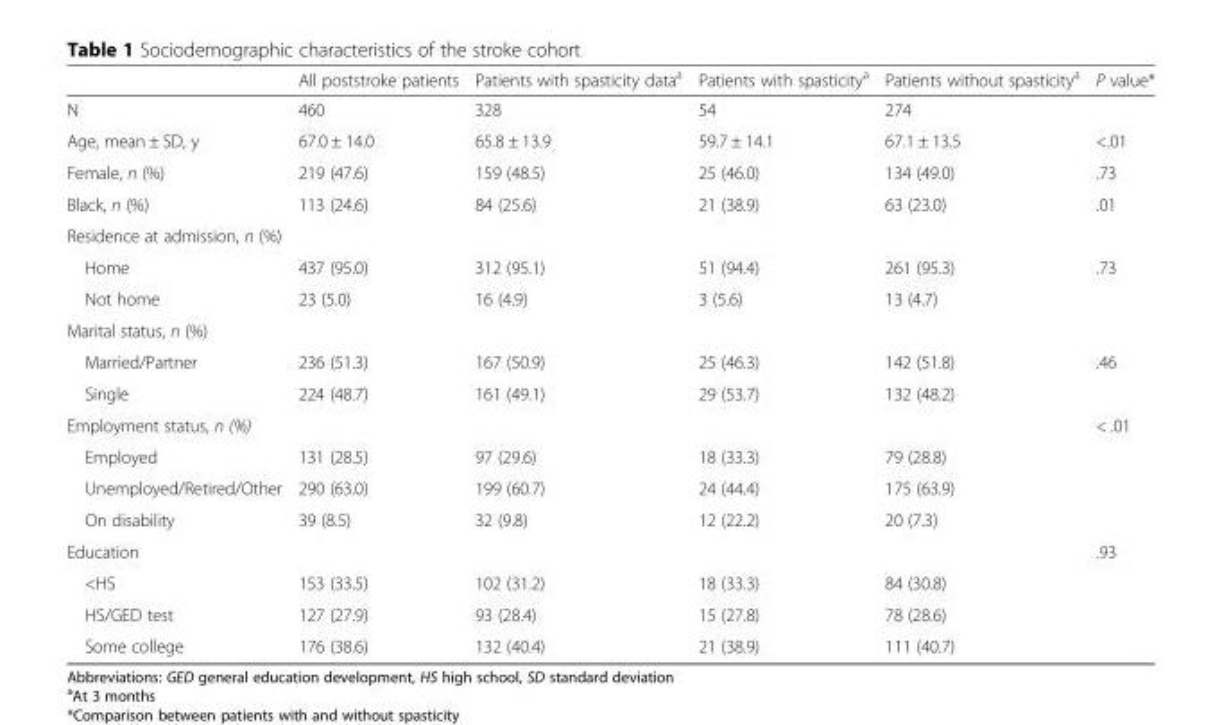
<table><thead><tr><td></td><td>All poststroke patients</td><td>Patients with spasticity data<sup>a</sup></td><td>Patients with spasticity<sup>a</sup></td><td>Patients without spasticity<sup>a</sup></td><td>P value*</td></tr></thead><tbody><tr><td>N</td><td>460</td><td>328</td><td>54</td><td>274</td><td></td></tr><tr><td>Age, mean ± SD, y</td><td>67.0 ± 14.0</td><td>65.8 ± 13.9</td><td>59.7 ± 14.1</td><td>67.1 ± 13.5</td><td>&lt;.01</td></tr><tr><td>Female, n (%)</td><td>219 (47.6)</td><td>159 (48.5)</td><td>25 (46.0)</td><td>134 (49.0)</td><td>.73</td></tr><tr><td>Black, n (%)</td><td>113 (24.6)</td><td>84 (25.6)</td><td>21 (38.9)</td><td>63 (23.0)</td><td>.01</td></tr><tr><td colspan="6">Residence at admission, n (%)</td></tr><tr><td>Home</td><td>437 (95.0)</td><td>312 (95.1)</td><td>51 (94.4)</td><td>261 (95.3)</td><td>.73</td></tr><tr><td>Not home</td><td>23 (5.0)</td><td>16 (4.9)</td><td>3 (5.6)</td><td>13 (4.7)</td><td></td></tr><tr><td colspan="6">Marital status, n (%)</td></tr><tr><td>Married/Partner</td><td>236 (51.3)</td><td>167 (50.9)</td><td>25 (46.3)</td><td>142 (51.8)</td><td>.46</td></tr><tr><td>Single</td><td>224 (48.7)</td><td>161 (49.1)</td><td>29 (53.7)</td><td>132 (48.2)</td><td></td></tr><tr><td>Employment status, n (%)</td><td></td><td></td><td></td><td></td><td>&lt; .01</td></tr><tr><td>Employed</td><td>131 (28.5)</td><td>97 (29.6)</td><td>18 (33.3)</td><td>79 (28.8)</td><td></td></tr><tr><td>Unemployed/Retired/Other</td><td>290 (63.0)</td><td>199 (60.7)</td><td>24 (44.4)</td><td>175 (63.9)</td><td></td></tr><tr><td>On disability</td><td>39 (8.5)</td><td>32 (9.8)</td><td>12 (22.2)</td><td>20 (7.3)</td><td></td></tr><tr><td>Education</td><td></td><td></td><td></td><td></td><td>.93</td></tr><tr><td>&lt;HS</td><td>153 (33.5)</td><td>102 (31.2)</td><td>18 (33.3)</td><td>84 (30.8)</td><td></td></tr><tr><td>HS/GED test</td><td>127 (27.9)</td><td>93 (28.4)</td><td>15 (27.8)</td><td>78 (28.6)</td><td></td></tr><tr><td>Some college</td><td>176 (38.6)</td><td>132 (40.4)</td><td>21 (38.9)</td><td>111 (40.7)</td><td></td></tr></tbody></table>